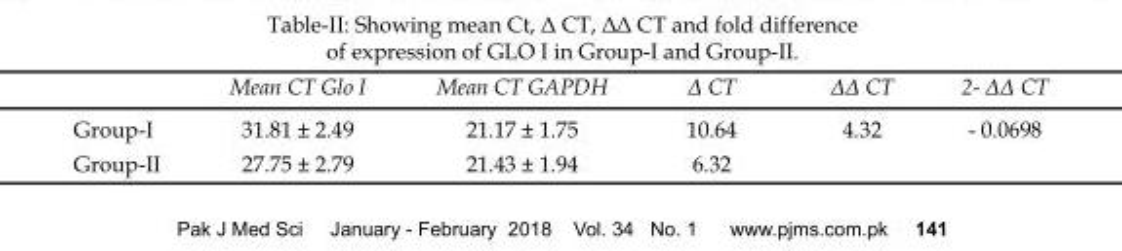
<table><thead><tr><td></td><td>Mean CT Glo I</td><td>Mean CT GAPDH</td><td>Δ CT</td><td>ΔΔ CT</td><td>2<sup>- ΔΔ CT</sup></td></tr></thead><tbody><tr><td>Group-I</td><td>31.81 ± 2.49</td><td>21.17 ± 1.75</td><td>10.64</td><td>4.32</td><td>- 0.0698</td></tr><tr><td>Group-II</td><td>27.75 ± 2.79</td><td>21.43 ± 1.94</td><td>6.32</td><td></td><td></td></tr></tbody></table>